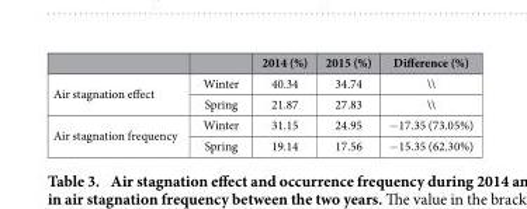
<table><thead><tr><td></td><td></td><td>2014 (%)</td><td>2015 (%)</td><td>Difference (%)</td></tr></thead><tbody><tr><td rowspan="2">Air stagnation effect</td><td>Winter</td><td>40.34</td><td>34.74</td><td>\\</td></tr><tr><td>Spring</td><td>21.87</td><td>27.83</td><td>\\</td></tr><tr><td rowspan="2">Air stagnation frequency</td><td>Winter</td><td>31.15</td><td>24.95</td><td>− 17.35 (73.05%)</td></tr><tr><td>Spring</td><td>19.14</td><td>17.56</td><td>− 15.35 (62.30%)</td></tr></tbody></table>